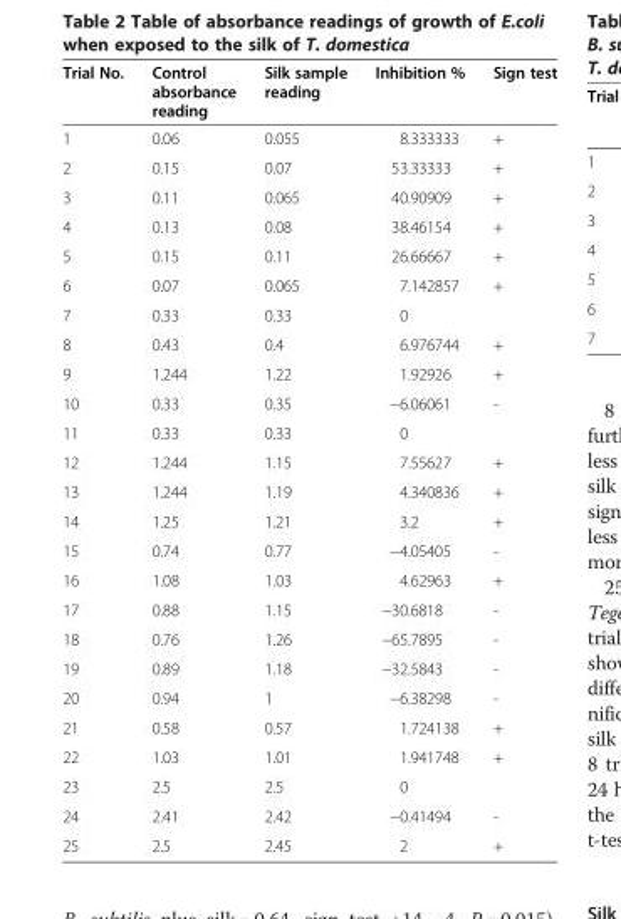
<table><thead><tr><td>Trial No.</td><td>Control absorbance reading</td><td>Silk sample reading</td><td>Inhibition %</td><td>Sign test</td></tr></thead><tbody><tr><td>1</td><td>0.06</td><td>0.055</td><td>8.333333</td><td>+</td></tr><tr><td>2</td><td>0.15</td><td>0.07</td><td>53.33333</td><td>+</td></tr><tr><td>3</td><td>0.11</td><td>0.065</td><td>40.90909</td><td>+</td></tr><tr><td>4</td><td>0.13</td><td>0.08</td><td>38.46154</td><td>+</td></tr><tr><td>5</td><td>0.15</td><td>0.11</td><td>26.66667</td><td>+</td></tr><tr><td>6</td><td>0.07</td><td>0.065</td><td>7.142857</td><td>+</td></tr><tr><td>7</td><td>0.33</td><td>0.33</td><td>0</td><td></td></tr><tr><td>8</td><td>0.43</td><td>0.4</td><td>6.976744</td><td>+</td></tr><tr><td>9</td><td>1.244</td><td>1.22</td><td>1.92926</td><td>+</td></tr><tr><td>10</td><td>0.33</td><td>0.35</td><td>−6.06061</td><td>-</td></tr><tr><td>11</td><td>0.33</td><td>0.33</td><td>0</td><td></td></tr><tr><td>12</td><td>1.244</td><td>1.15</td><td>7.55627</td><td>+</td></tr><tr><td>13</td><td>1.244</td><td>1.19</td><td>4.340836</td><td>+</td></tr><tr><td>14</td><td>1.25</td><td>1.21</td><td>3.2</td><td>+</td></tr><tr><td>15</td><td>0.74</td><td>0.77</td><td>−4.05405</td><td>-</td></tr><tr><td>16</td><td>1.08</td><td>1.03</td><td>4.62963</td><td>+</td></tr><tr><td>17</td><td>0.88</td><td>1.15</td><td>−30.6818</td><td>-</td></tr><tr><td>18</td><td>0.76</td><td>1.26</td><td>−65.7895</td><td>-</td></tr><tr><td>19</td><td>0.89</td><td>1.18</td><td>−32.5843</td><td>-</td></tr><tr><td>20</td><td>0.94</td><td>1</td><td>−6.38298</td><td>-</td></tr><tr><td>21</td><td>0.58</td><td>0.57</td><td>1.724138</td><td>+</td></tr><tr><td>22</td><td>1.03</td><td>1.01</td><td>1.941748</td><td>+</td></tr><tr><td>23</td><td>2.5</td><td>2.5</td><td>0</td><td></td></tr><tr><td>24</td><td>2.41</td><td>2.42</td><td>−0.41494</td><td>-</td></tr><tr><td>25</td><td>2.5</td><td>2.45</td><td>2</td><td>+</td></tr></tbody></table>